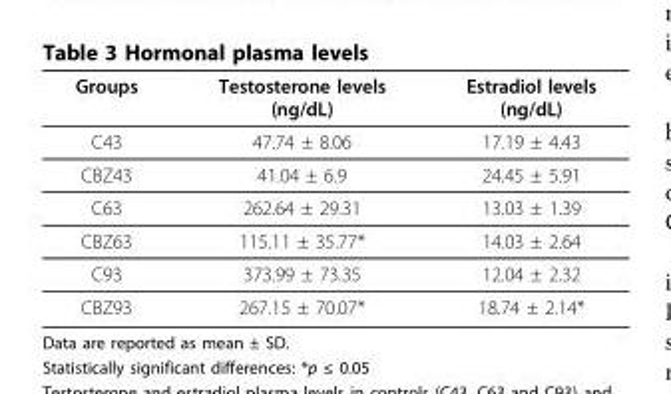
<table><thead><tr><td>Groups</td><td>Testosterone levels (ng/dL)</td><td>Estradiol levels (ng/dL)</td></tr></thead><tbody><tr><td>C43</td><td>47.74 ± 8.06</td><td>17.19 ± 4.43</td></tr><tr><td>CBZ43</td><td>41.04 ± 6.9</td><td>24.45 ± 5.91</td></tr><tr><td>C63</td><td>262.64 ± 29.31</td><td>13.03 ± 1.39</td></tr><tr><td>CBZ63</td><td>115.11 ± 35.77*</td><td>14.03 ± 2.64</td></tr><tr><td>C93</td><td>373.99 ± 73.35</td><td>12.04 ± 2.32</td></tr><tr><td>CBZ93</td><td>267.15 ± 70.07*</td><td>18.74 ± 2.14*</td></tr></tbody></table>